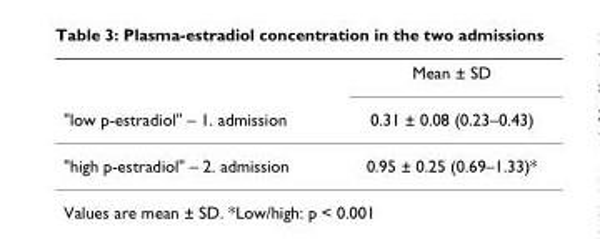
<table><thead><tr><td rowspan="2">&quot;low p-estradiol&quot; – 1. admission</td><td rowspan="2">Mean ± SD 0.31 ± 0.08 (0.23–0.43)</td></tr><tr></tr></thead><tbody><tr><td>&quot;high p-estradiol&quot; – 2. admission</td><td>0.95 ± 0.25 (0.69–1.33)*</td></tr></tbody></table>